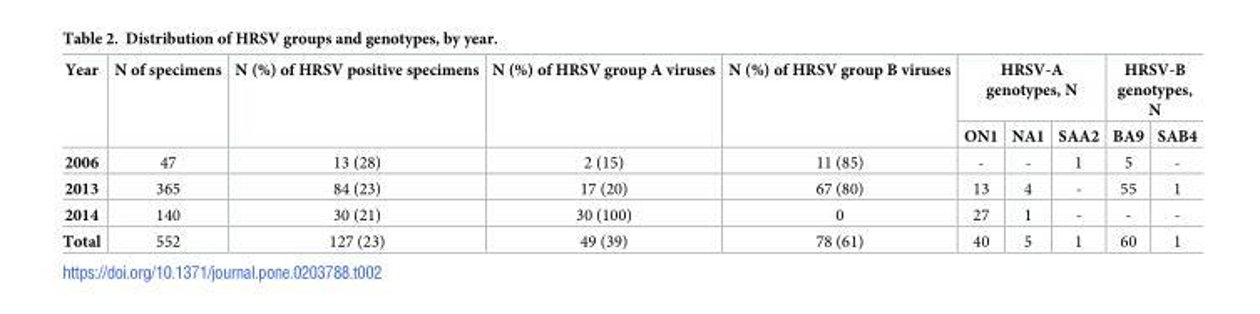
<table><thead><tr><td rowspan="2">Year</td><td rowspan="2">N of specimens</td><td rowspan="2">N (%) of HRSV positive specimens</td><td rowspan="2">N (%) of HRSV group A viruses</td><td rowspan="2">N (%) of HRSV group B viruses</td><td colspan="3">HRSV-A genotypes, N</td><td colspan="2">HRSV-B genotypes, N</td></tr><tr><td>ON1</td><td>NA1</td><td>SAA2</td><td>BA9</td><td>SAB4</td></tr></thead><tbody><tr><td>2006</td><td>47</td><td>13 (28)</td><td>2 (15)</td><td>11 (85)</td><td>-</td><td>-</td><td>1</td><td>5</td><td>-</td></tr><tr><td>2013</td><td>365</td><td>84 (23)</td><td>17 (20)</td><td>67 (80)</td><td>13</td><td>4</td><td>-</td><td>55</td><td>1</td></tr><tr><td>2014</td><td>140</td><td>30 (21)</td><td>30 (100)</td><td>0</td><td>27</td><td>1</td><td>-</td><td>-</td><td>-</td></tr><tr><td>Total</td><td>552</td><td>127 (23)</td><td>49 (39)</td><td>78 (61)</td><td>40</td><td>5</td><td>1</td><td>60</td><td>1</td></tr></tbody></table>